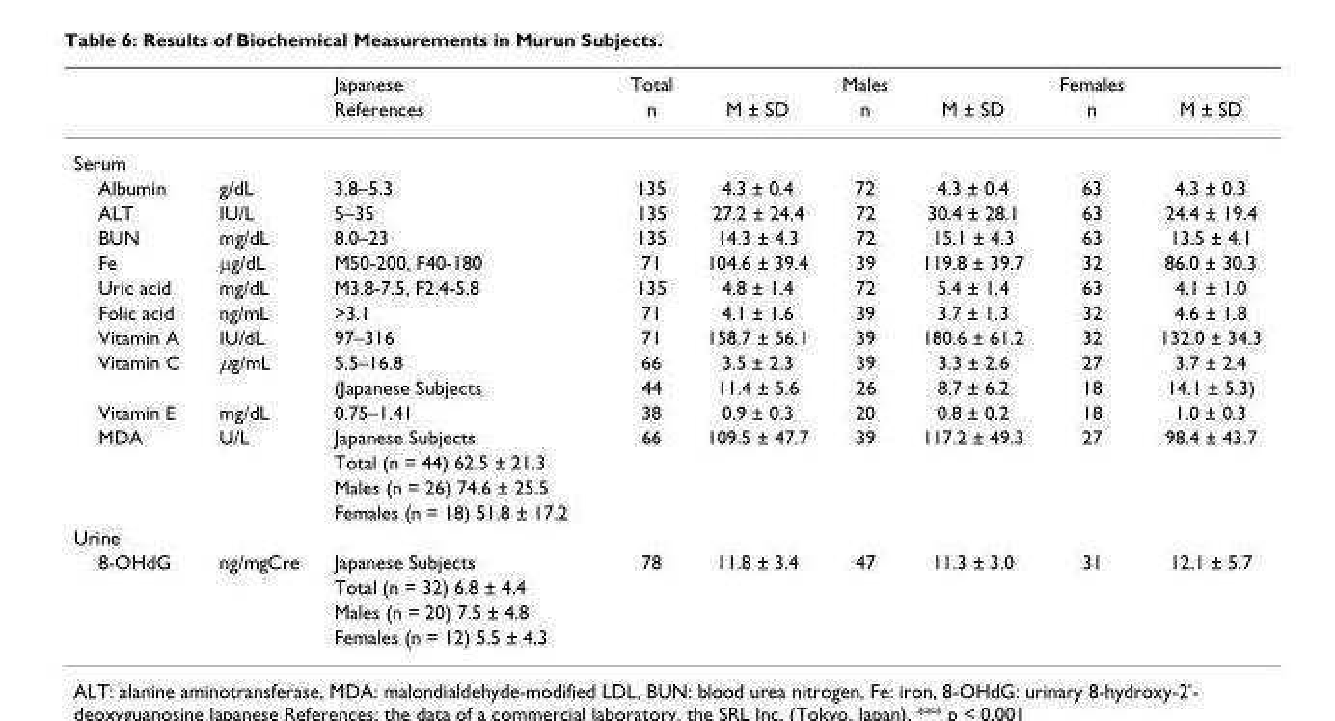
<table><thead><tr><td rowspan="2"></td><td rowspan="2"></td><td rowspan="2">Japanese References</td><td rowspan="2">Total n</td><td rowspan="2">M ± SD</td><td rowspan="2">Males n</td><td rowspan="2">M ± SD</td><td rowspan="2">Females n</td><td rowspan="2">M ± SD</td></tr><tr></tr></thead><tbody><tr><td colspan="9">Serum</td></tr><tr><td>Albumin</td><td>g/dL</td><td>3.8–5.3</td><td>135</td><td>4.3 ± 0.4</td><td>72</td><td>4.3 ± 0.4</td><td>63</td><td>4.3 ± 0.3</td></tr><tr><td>ALT</td><td>IU/L</td><td>5–35</td><td>135</td><td>27.2 ± 24.4</td><td>72</td><td>30.4 ± 28.1</td><td>63</td><td>24.4 ± 19.4</td></tr><tr><td>BUN</td><td>mg/dL</td><td>8.0–23</td><td>135</td><td>14.3 ± 4.3</td><td>72</td><td>15.1 ± 4.3</td><td>63</td><td>13.5 ± 4.1</td></tr><tr><td>Fe</td><td>μg/dL</td><td>M50-200, F40-180</td><td>71</td><td>104.6 ± 39.4</td><td>39</td><td>119.8 ± 39.7</td><td>32</td><td>86.0 ± 30.3</td></tr><tr><td>Uric acid</td><td>mg/dL</td><td>M3.8-7.5, F2.4-5.8</td><td>135</td><td>4.8 ± 1.4</td><td>72</td><td>5.4 ± 1.4</td><td>63</td><td>4.1 ± 1.0</td></tr><tr><td>Folic acid</td><td>ng/mL</td><td>&gt;3.1</td><td>71</td><td>4.1 ± 1.6</td><td>39</td><td>3.7 ± 1.3</td><td>32</td><td>4.6 ± 1.8</td></tr><tr><td>Vitamin A</td><td>IU/dL</td><td>97–316</td><td>71</td><td>158.7 ± 56.1</td><td>39</td><td>180.6 ± 61.2</td><td>32</td><td>132.0 ± 34.3</td></tr><tr><td rowspan="2">Vitamin C</td><td>μg/mL</td><td>5.5–16.8</td><td>66</td><td>3.5 ± 2.3</td><td>39</td><td>3.3 ± 2.6</td><td>27</td><td>3.7 ± 2.4</td></tr><tr><td></td><td>(Japanese Subjects</td><td>44</td><td>11.4 ± 5.6</td><td>26</td><td>8.7 ± 6.2</td><td>18</td><td>14.1 ± 5.3)</td></tr><tr><td>Vitamin E</td><td>mg/dL</td><td>0.75–1.41</td><td>38</td><td>0.9 ± 0.3</td><td>20</td><td>0.8 ± 0.2</td><td>18</td><td>1.0 ± 0.3</td></tr><tr><td rowspan="4">MDA</td><td>U/L</td><td>Japanese Subjects</td><td>66</td><td>109.5 ± 47.7</td><td>39</td><td>117.2 ± 49.3</td><td>27</td><td>98.4 ± 43.7</td></tr><tr><td></td><td>Total (n = 44) 62.5 ± 21.3</td><td></td><td></td><td></td><td></td><td></td><td></td></tr><tr><td></td><td>Males (n = 26) 74.6 ± 25.5</td><td></td><td></td><td></td><td></td><td></td><td></td></tr><tr><td></td><td>Females (n = 18) 51.8 ± 17.2</td><td></td><td></td><td></td><td></td><td></td><td></td></tr><tr><td colspan="9">Urine</td></tr><tr><td rowspan="4">8-OHdG</td><td>ng/mgCre</td><td>Japanese Subjects</td><td>78</td><td>11.8 ± 3.4</td><td>47</td><td>11.3 ± 3.0</td><td>31</td><td>12.1 ± 5.7</td></tr><tr><td></td><td>Total (n = 32) 6.8 ± 4.4</td><td></td><td></td><td></td><td></td><td></td><td></td></tr><tr><td></td><td>Males (n = 20) 7.5 ± 4.8</td><td></td><td></td><td></td><td></td><td></td><td></td></tr><tr><td></td><td>Females (n = 12) 5.5 ± 4.3</td><td></td><td></td><td></td><td></td><td></td><td></td></tr></tbody></table>